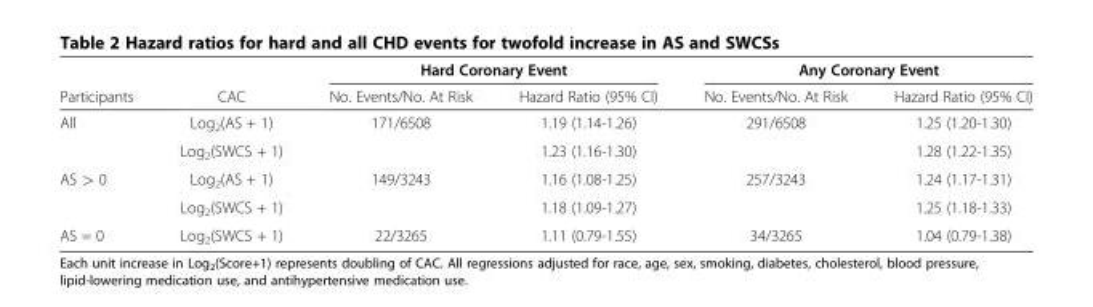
<table><thead><tr><td rowspan="2">Participants</td><td rowspan="2">CAC</td><td colspan="2">Hard Coronary Event</td><td colspan="2">Any Coronary Event</td></tr><tr><td>No. Events/No. At Risk</td><td>Hazard Ratio (95% CI)</td><td>No. Events/No. At Risk</td><td>Hazard Ratio (95% CI)</td></tr></thead><tbody><tr><td rowspan="2">All</td><td>Log<sub>2</sub>(AS + 1)</td><td rowspan="2">171/6508</td><td>1.19 (1.14-1.26)</td><td rowspan="2">291/6508</td><td>1.25 (1.20-1.30)</td></tr><tr><td>Log<sub>2</sub>(SWCS + 1)</td><td>1.23 (1.16-1.30)</td><td>1.28 (1.22-1.35)</td></tr><tr><td rowspan="2">AS &gt; 0</td><td>Log<sub>2</sub>(AS + 1)</td><td rowspan="2">149/3243</td><td>1.16 (1.08-1.25)</td><td rowspan="2">257/3243</td><td>1.24 (1.17-1.31)</td></tr><tr><td>Log<sub>2</sub>(SWCS + 1)</td><td>1.18 (1.09-1.27)</td><td>1.25 (1.18-1.33)</td></tr><tr><td>AS = 0</td><td>Log<sub>2</sub>(SWCS + 1)</td><td>22/3265</td><td>1.11 (0.79-1.55)</td><td>34/3265</td><td>1.04 (0.79-1.38)</td></tr></tbody></table>